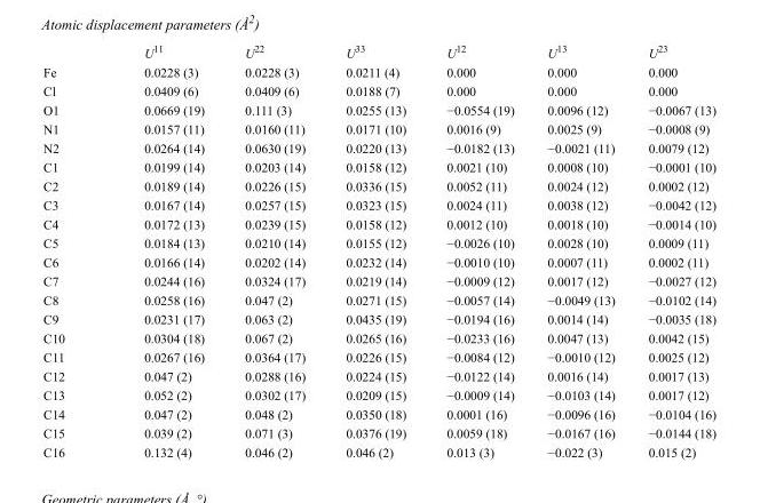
<table><thead><tr><td></td><td>U<sup>11</sup></td><td>U<sup>22</sup></td><td>U<sup>33</sup></td><td>U<sup>12</sup></td><td>U<sup>13</sup></td><td>U<sup>23</sup></td></tr></thead><tbody><tr><td>Fe</td><td>0.0228 (3)</td><td>0.0228 (3)</td><td>0.0211 (4)</td><td>0.000</td><td>0.000</td><td>0.000</td></tr><tr><td>Cl</td><td>0.0409 (6)</td><td>0.0409 (6)</td><td>0.0188 (7)</td><td>0.000</td><td>0.000</td><td>0.000</td></tr><tr><td>O1</td><td>0.0669 (19)</td><td>0.111 (3)</td><td>0.0255 (13)</td><td>−0.0554 (19)</td><td>0.0096 (12)</td><td>−0.0067 (13)</td></tr><tr><td>N1</td><td>0.0157 (11)</td><td>0.0160 (11)</td><td>0.0171 (10)</td><td>0.0016 (9)</td><td>0.0025 (9)</td><td>−0.0008 (9)</td></tr><tr><td>N2</td><td>0.0264 (14)</td><td>0.0630 (19)</td><td>0.0220 (13)</td><td>−0.0182 (13)</td><td>−0.0021 (11)</td><td>0.0079 (12)</td></tr><tr><td>C1</td><td>0.0199 (14)</td><td>0.0203 (14)</td><td>0.0158 (12)</td><td>0.0021 (10)</td><td>0.0008 (10)</td><td>−0.0001 (10)</td></tr><tr><td>C2</td><td>0.0189 (14)</td><td>0.0226 (15)</td><td>0.0336 (15)</td><td>0.0052 (11)</td><td>0.0024 (12)</td><td>0.0002 (12)</td></tr><tr><td>C3</td><td>0.0167 (14)</td><td>0.0257 (15)</td><td>0.0323 (15)</td><td>0.0024 (11)</td><td>0.0038 (12)</td><td>−0.0042 (12)</td></tr><tr><td>C4</td><td>0.0172 (13)</td><td>0.0239 (15)</td><td>0.0158 (12)</td><td>0.0012 (10)</td><td>0.0018 (10)</td><td>−0.0014 (10)</td></tr><tr><td>C5</td><td>0.0184 (13)</td><td>0.0210 (14)</td><td>0.0155 (12)</td><td>−0.0026 (10)</td><td>0.0028 (10)</td><td>0.0009 (11)</td></tr><tr><td>C6</td><td>0.0166 (14)</td><td>0.0202 (14)</td><td>0.0232 (14)</td><td>−0.0010 (10)</td><td>0.0007 (11)</td><td>0.0002 (11)</td></tr><tr><td>C7</td><td>0.0244 (16)</td><td>0.0324 (17)</td><td>0.0219 (14)</td><td>−0.0009 (12)</td><td>0.0017 (12)</td><td>−0.0027 (12)</td></tr><tr><td>C8</td><td>0.0258 (16)</td><td>0.047 (2)</td><td>0.0271 (15)</td><td>−0.0057 (14)</td><td>−0.0049 (13)</td><td>−0.0102 (14)</td></tr><tr><td>C9</td><td>0.0231 (17)</td><td>0.063 (2)</td><td>0.0435 (19)</td><td>−0.0194 (16)</td><td>0.0014 (14)</td><td>−0.0035 (18)</td></tr><tr><td>C10</td><td>0.0304 (18)</td><td>0.067 (2)</td><td>0.0265 (16)</td><td>−0.0233 (16)</td><td>0.0047 (13)</td><td>0.0042 (15)</td></tr><tr><td>C11</td><td>0.0267 (16)</td><td>0.0364 (17)</td><td>0.0226 (15)</td><td>−0.0084 (12)</td><td>−0.0010 (12)</td><td>0.0025 (12)</td></tr><tr><td>C12</td><td>0.047 (2)</td><td>0.0288 (16)</td><td>0.0224 (15)</td><td>−0.0122 (14)</td><td>0.0016 (14)</td><td>0.0017 (13)</td></tr><tr><td>C13</td><td>0.052 (2)</td><td>0.0302 (17)</td><td>0.0209 (15)</td><td>−0.0009 (14)</td><td>−0.0103 (14)</td><td>0.0017 (12)</td></tr><tr><td>C14</td><td>0.047 (2)</td><td>0.048 (2)</td><td>0.0350 (18)</td><td>0.0001 (16)</td><td>−0.0096 (16)</td><td>−0.0104 (16)</td></tr><tr><td>C15</td><td>0.039 (2)</td><td>0.071 (3)</td><td>0.0376 (19)</td><td>0.0059 (18)</td><td>−0.0167 (16)</td><td>−0.0144 (18)</td></tr><tr><td>C16</td><td>0.132 (4)</td><td>0.046 (2)</td><td>0.046 (2)</td><td>0.013 (3)</td><td>−0.022 (3)</td><td>0.015 (2)</td></tr></tbody></table>